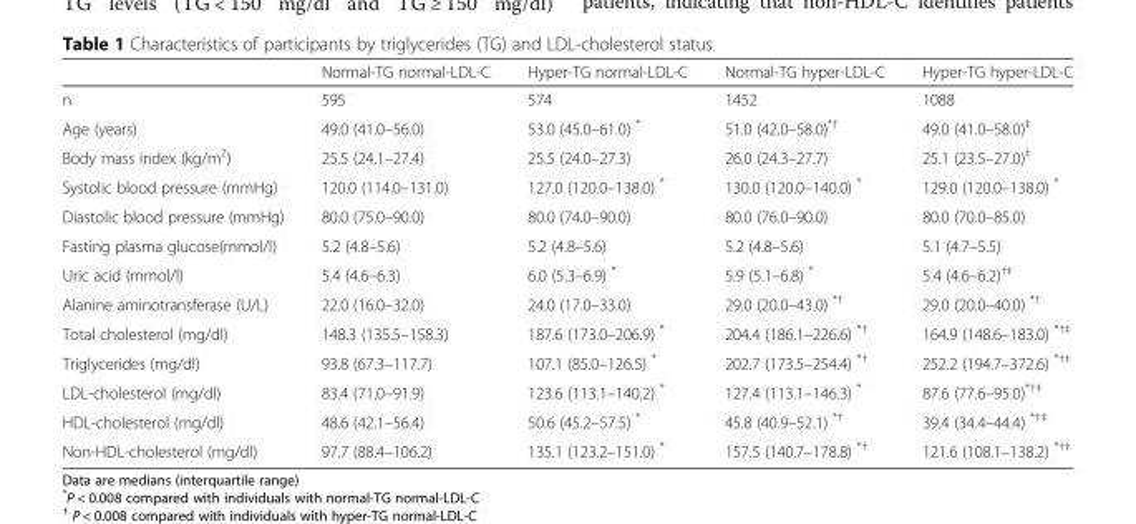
<table><thead><tr><td></td><td>Normal-TG normal-LDL-C</td><td>Hyper-TG normal-LDL-C</td><td>Normal-TG hyper-LDL-C</td><td>Hyper-TG hyper-LDL-C</td></tr></thead><tbody><tr><td>n</td><td>595</td><td>574</td><td>1452</td><td>1088</td></tr><tr><td>Age (years)</td><td>49.0 (41.0–56.0)</td><td>53.0 (45.0–61.0) *</td><td>51.0 (42.0–58.0)<sup>*†</sup></td><td>49.0 (41.0–58.0)<sup>‡</sup></td></tr><tr><td>Body mass index (kg/m<sup>2</sup>)</td><td>25.5 (24.1–27.4)</td><td>25.5 (24.0–27.3)</td><td>26.0 (24.3–27.7)</td><td>25.1 (23.5–27.0)<sup>‡</sup></td></tr><tr><td>Systolic blood pressure (mmHg)</td><td>120.0 (114.0–131.0)</td><td>127.0 (120.0–138.0) *</td><td>130.0 (120.0–140.0) *</td><td>129.0 (120.0–138.0) *</td></tr><tr><td>Diastolic blood pressure (mmHg)</td><td>80.0 (75.0–90.0)</td><td>80.0 (74.0–90.0)</td><td>80.0 (76.0–90.0)</td><td>80.0 (70.0–85.0)</td></tr><tr><td>Fasting plasma glucose(mmol/l)</td><td>5.2 (4.8–5.6)</td><td>5.2 (4.8–5.6)</td><td>5.2 (4.8–5.6)</td><td>5.1 (4.7–5.5)</td></tr><tr><td>Uric acid (mmol/l)</td><td>5.4 (4.6–6.3)</td><td>6.0 (5.3–6.9) *</td><td>5.9 (5.1–6.8) *</td><td>5.4 (4.6–6.2)<sup>†‡</sup></td></tr><tr><td>Alanine aminotransferase (U/L)</td><td>22.0 (16.0–32.0)</td><td>24.0 (17.0–33.0)</td><td>29.0 (20.0–43.0) <sup>*†</sup></td><td>29.0 (20.0–40.0) <sup>*†</sup></td></tr><tr><td>Total cholesterol (mg/dl)</td><td>148.3 (135.5–158.3)</td><td>187.6 (173.0–206.9) *</td><td>204.4 (186.1–226.6) <sup>*†</sup></td><td>164.9 (148.6–183.0) <sup>*†‡</sup></td></tr><tr><td>Triglycerides (mg/dl)</td><td>93.8 (67.3–117.7)</td><td>107.1 (85.0–126.5) *</td><td>202.7 (173.5–254.4) <sup>*†</sup></td><td>252.2 (194.7–372.6) <sup>*†‡</sup></td></tr><tr><td>LDL-cholesterol (mg/dl)</td><td>83.4 (71.0–91.9)</td><td>123.6 (113.1–140.2) *</td><td>127.4 (113.1–146.3) *</td><td>87.6 (77.6–95.0)<sup>*†‡</sup></td></tr><tr><td>HDL-cholesterol (mg/dl)</td><td>48.6 (42.1–56.4)</td><td>50.6 (45.2–57.5) *</td><td>45.8 (40.9–52.1) <sup>*†</sup></td><td>39.4 (34.4–44.4) <sup>*†‡</sup></td></tr><tr><td>Non-HDL-cholesterol (mg/dl)</td><td>97.7 (88.4–106.2)</td><td>135.1 (123.2–151.0) *</td><td>157.5 (140.7–178.8) <sup>*†</sup></td><td>121.6 (108.1–138.2) <sup>*†‡</sup></td></tr></tbody></table>